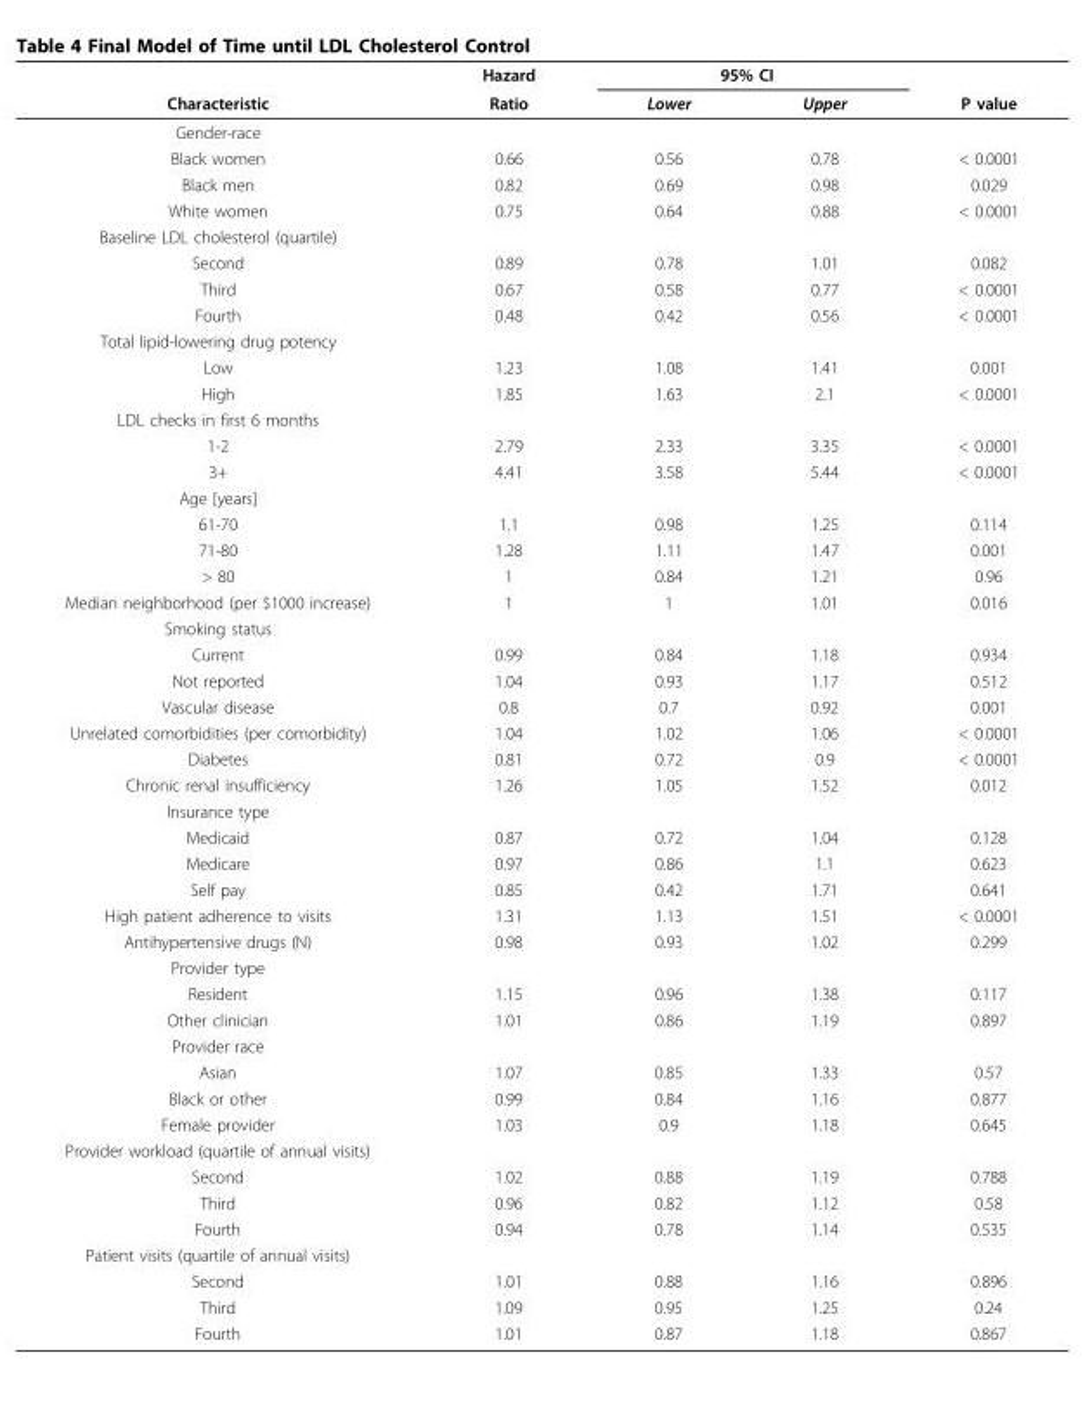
<table><thead><tr><td rowspan="2">Characteristic</td><td rowspan="2">Hazard Ratio</td><td colspan="2">95% CI</td><td rowspan="2">P value</td></tr><tr><td>Lower</td><td>Upper</td></tr></thead><tbody><tr><td colspan="5">Gender-race</td></tr><tr><td>Black women</td><td>0.66</td><td>0.56</td><td>0.78</td><td>&lt; 0.0001</td></tr><tr><td>Black men</td><td>0.82</td><td>0.69</td><td>0.98</td><td>0.029</td></tr><tr><td>White women</td><td>0.75</td><td>0.64</td><td>0.88</td><td>&lt; 0.0001</td></tr><tr><td colspan="5">Baseline LDL cholesterol (quartile)</td></tr><tr><td>Second</td><td>0.89</td><td>0.78</td><td>1.01</td><td>0.082</td></tr><tr><td>Third</td><td>0.67</td><td>0.58</td><td>0.77</td><td>&lt; 0.0001</td></tr><tr><td>Fourth</td><td>0.48</td><td>0.42</td><td>0.56</td><td>&lt; 0.0001</td></tr><tr><td colspan="5">Total lipid-lowering drug potency</td></tr><tr><td>Low</td><td>1.23</td><td>1.08</td><td>1.41</td><td>0.001</td></tr><tr><td>High</td><td>1.85</td><td>1.63</td><td>2.1</td><td>&lt; 0.0001</td></tr><tr><td colspan="5">LDL checks in first 6 months</td></tr><tr><td>1-2</td><td>2.79</td><td>2.33</td><td>3.35</td><td>&lt; 0.0001</td></tr><tr><td>3+</td><td>4.41</td><td>3.58</td><td>5.44</td><td>&lt; 0.0001</td></tr><tr><td colspan="5">Age [years]</td></tr><tr><td>61-70</td><td>1.1</td><td>0.98</td><td>1.25</td><td>0.114</td></tr><tr><td>71-80</td><td>1.28</td><td>1.11</td><td>1.47</td><td>0.001</td></tr><tr><td>&gt; 80</td><td>1</td><td>0.84</td><td>1.21</td><td>0.96</td></tr><tr><td>Median neighborhood (per $1000 increase)</td><td>1</td><td>1</td><td>1.01</td><td>0.016</td></tr><tr><td colspan="5">Smoking status</td></tr><tr><td>Current</td><td>0.99</td><td>0.84</td><td>1.18</td><td>0.934</td></tr><tr><td>Not reported</td><td>1.04</td><td>0.93</td><td>1.17</td><td>0.512</td></tr><tr><td>Vascular disease</td><td>0.8</td><td>0.7</td><td>0.92</td><td>0.001</td></tr><tr><td>Unrelated comorbidities (per comorbidity)</td><td>1.04</td><td>1.02</td><td>1.06</td><td>&lt; 0.0001</td></tr><tr><td>Diabetes</td><td>0.81</td><td>0.72</td><td>0.9</td><td>&lt; 0.0001</td></tr><tr><td>Chronic renal insufficiency</td><td>1.26</td><td>1.05</td><td>1.52</td><td>0.012</td></tr><tr><td colspan="5">Insurance type</td></tr><tr><td>Medicaid</td><td>0.87</td><td>0.72</td><td>1.04</td><td>0.128</td></tr><tr><td>Medicare</td><td>0.97</td><td>0.86</td><td>1.1</td><td>0.623</td></tr><tr><td>Self pay</td><td>0.85</td><td>0.42</td><td>1.71</td><td>0.641</td></tr><tr><td>High patient adherence to visits</td><td>1.31</td><td>1.13</td><td>1.51</td><td>&lt; 0.0001</td></tr><tr><td>Antihypertensive drugs (N)</td><td>0.98</td><td>0.93</td><td>1.02</td><td>0.299</td></tr><tr><td colspan="5">Provider type</td></tr><tr><td>Resident</td><td>1.15</td><td>0.96</td><td>1.38</td><td>0.117</td></tr><tr><td>Other clinician</td><td>1.01</td><td>0.86</td><td>1.19</td><td>0.897</td></tr><tr><td colspan="5">Provider race</td></tr><tr><td>Asian</td><td>1.07</td><td>0.85</td><td>1.33</td><td>0.57</td></tr><tr><td>Black or other</td><td>0.99</td><td>0.84</td><td>1.16</td><td>0.877</td></tr><tr><td>Female provider</td><td>1.03</td><td>0.9</td><td>1.18</td><td>0.645</td></tr><tr><td colspan="5">Provider workload (quartile of annual visits)</td></tr><tr><td>Second</td><td>1.02</td><td>0.88</td><td>1.19</td><td>0.788</td></tr><tr><td>Third</td><td>0.96</td><td>0.82</td><td>1.12</td><td>0.58</td></tr><tr><td>Fourth</td><td>0.94</td><td>0.78</td><td>1.14</td><td>0.535</td></tr><tr><td colspan="5">Patient visits (quartile of annual visits)</td></tr><tr><td>Second</td><td>1.01</td><td>0.88</td><td>1.16</td><td>0.896</td></tr><tr><td>Third</td><td>1.09</td><td>0.95</td><td>1.25</td><td>0.24</td></tr><tr><td>Fourth</td><td>1.01</td><td>0.87</td><td>1.18</td><td>0.867</td></tr></tbody></table>